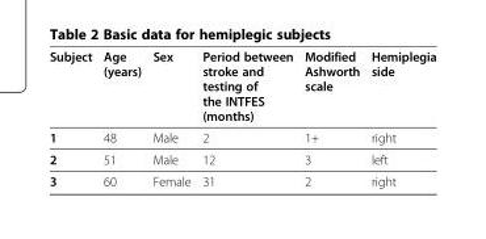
<table><thead><tr><td>Subject</td><td>Age (years)</td><td>Sex</td><td>Period between stroke and testing of the INTFES (months)</td><td>Modified Ashworth scale</td><td>Hemiplegia side</td></tr></thead><tbody><tr><td>1</td><td>48</td><td>Male</td><td>2</td><td>1+</td><td>right</td></tr><tr><td>2</td><td>51</td><td>Male</td><td>12</td><td>3</td><td>left</td></tr><tr><td>3</td><td>60</td><td>Female</td><td>31</td><td>2</td><td>right</td></tr></tbody></table>